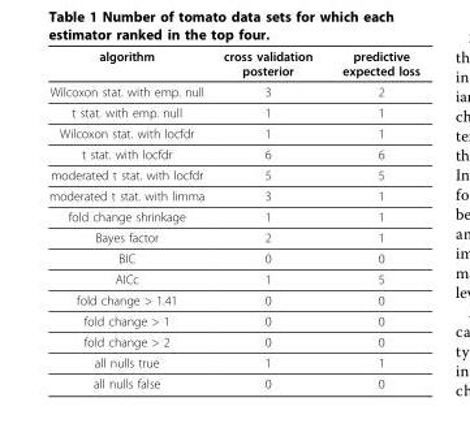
<table><thead><tr><td>algorithm</td><td>cross validation posterior</td><td>predictive expected loss</td></tr></thead><tbody><tr><td>Wilcoxon stat. with emp. null</td><td>3</td><td>2</td></tr><tr><td>t stat. with emp. null</td><td>1</td><td>1</td></tr><tr><td>Wilcoxon stat. with locfdr</td><td>1</td><td>1</td></tr><tr><td>t stat. with locfdr</td><td>6</td><td>6</td></tr><tr><td>moderated t stat. with locfdr</td><td>5</td><td>5</td></tr><tr><td>moderated t stat. with limma</td><td>3</td><td>1</td></tr><tr><td>fold change shrinkage</td><td>1</td><td>1</td></tr><tr><td>Bayes factor</td><td>2</td><td>1</td></tr><tr><td>BIC</td><td>0</td><td>0</td></tr><tr><td>AICc</td><td>1</td><td>5</td></tr><tr><td>fold change &gt; 1.41</td><td>0</td><td>0</td></tr><tr><td>fold change &gt; 1</td><td>0</td><td>0</td></tr><tr><td>fold change &gt; 2</td><td>0</td><td>0</td></tr><tr><td>all nulls true</td><td>1</td><td>1</td></tr><tr><td>all nulls false</td><td>0</td><td>0</td></tr></tbody></table>